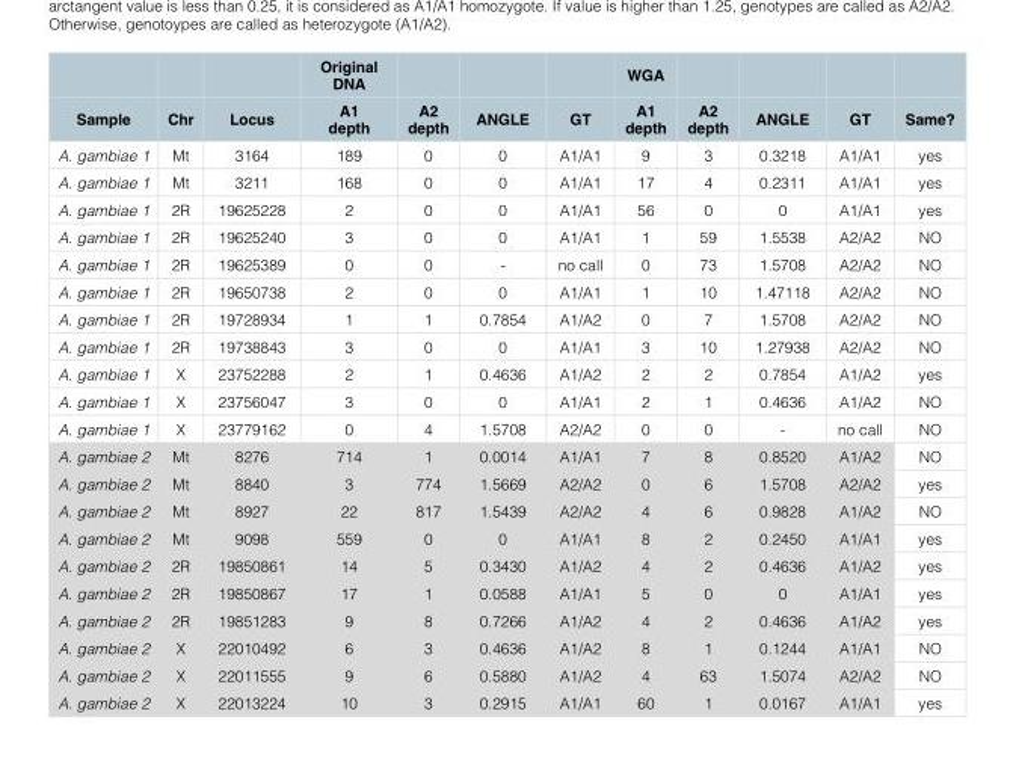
<table><thead><tr><td rowspan="2">Sample</td><td rowspan="2">Chr</td><td rowspan="2">Locus</td><td rowspan="2">Original DNA A1 depth</td><td rowspan="2">A2 depth</td><td rowspan="2">ANGLE</td><td rowspan="2">GT</td><td rowspan="2">WGA A1 depth</td><td rowspan="2">A2 depth</td><td rowspan="2">ANGLE</td><td rowspan="2">GT</td><td rowspan="2">Same?</td></tr><tr></tr></thead><tbody><tr><td>A. gambiae 1</td><td>Mt</td><td>3164</td><td>189</td><td>0</td><td>0</td><td>A1/A1</td><td>9</td><td>3</td><td>0.3218</td><td>A1/A1</td><td>yes</td></tr><tr><td>A. gambiae 1</td><td>Mt</td><td>3211</td><td>168</td><td>0</td><td>0</td><td>A1/A1</td><td>17</td><td>4</td><td>0.2311</td><td>A1/A1</td><td>yes</td></tr><tr><td>A. gambiae 1</td><td>2R</td><td>19625228</td><td>2</td><td>0</td><td>0</td><td>A1/A1</td><td>56</td><td>0</td><td>0</td><td>A1/A1</td><td>yes</td></tr><tr><td>A. gambiae 1</td><td>2R</td><td>19625240</td><td>3</td><td>0</td><td>0</td><td>A1/A1</td><td>1</td><td>59</td><td>1.5538</td><td>A2/A2</td><td>NO</td></tr><tr><td>A. gambiae 1</td><td>2R</td><td>19625389</td><td>0</td><td>0</td><td>-</td><td>no call</td><td>0</td><td>73</td><td>1.5708</td><td>A2/A2</td><td>NO</td></tr><tr><td>A. gambiae 1</td><td>2R</td><td>19650738</td><td>2</td><td>0</td><td>0</td><td>A1/A1</td><td>1</td><td>10</td><td>1.47118</td><td>A2/A2</td><td>NO</td></tr><tr><td>A. gambiae 1</td><td>2R</td><td>19728934</td><td>1</td><td>1</td><td>0.7854</td><td>A1/A2</td><td>0</td><td>7</td><td>1.5708</td><td>A2/A2</td><td>NO</td></tr><tr><td>A. gambiae 1</td><td>2R</td><td>19738843</td><td>3</td><td>0</td><td>0</td><td>A1/A1</td><td>3</td><td>10</td><td>1.27938</td><td>A2/A2</td><td>NO</td></tr><tr><td>A. gambiae 1</td><td>X</td><td>23752288</td><td>2</td><td>1</td><td>0.4636</td><td>A1/A2</td><td>2</td><td>2</td><td>0.7854</td><td>A1/A2</td><td>yes</td></tr><tr><td>A. gambiae 1</td><td>X</td><td>23756047</td><td>3</td><td>0</td><td>0</td><td>A1/A1</td><td>2</td><td>1</td><td>0.4636</td><td>A1/A2</td><td>NO</td></tr><tr><td>A. gambiae 1</td><td>X</td><td>23779162</td><td>0</td><td>4</td><td>1.5708</td><td>A2/A2</td><td>0</td><td>0</td><td>-</td><td>no call</td><td>NO</td></tr><tr><td>A. gambiae 2</td><td>Mt</td><td>8276</td><td>714</td><td>1</td><td>0.0014</td><td>A1/A1</td><td>7</td><td>8</td><td>0.8520</td><td>A1/A2</td><td>NO</td></tr><tr><td>A. gambiae 2</td><td>Mt</td><td>8840</td><td>3</td><td>774</td><td>1.5669</td><td>A2/A2</td><td>0</td><td>6</td><td>1.5708</td><td>A2/A2</td><td>yes</td></tr><tr><td>A. gambiae 2</td><td>Mt</td><td>8927</td><td>22</td><td>817</td><td>1.5439</td><td>A2/A2</td><td>4</td><td>6</td><td>0.9828</td><td>A1/A2</td><td>NO</td></tr><tr><td>A. gambiae 2</td><td>Mt</td><td>9098</td><td>559</td><td>0</td><td>0</td><td>A1/A1</td><td>8</td><td>2</td><td>0.2450</td><td>A1/A1</td><td>yes</td></tr><tr><td>A. gambiae 2</td><td>2R</td><td>19850861</td><td>14</td><td>5</td><td>0.3430</td><td>A1/A2</td><td>4</td><td>2</td><td>0.4636</td><td>A1/A2</td><td>yes</td></tr><tr><td>A. gambiae 2</td><td>2R</td><td>19850867</td><td>17</td><td>1</td><td>0.0588</td><td>A1/A1</td><td>5</td><td>0</td><td>0</td><td>A1/A1</td><td>yes</td></tr><tr><td>A. gambiae 2</td><td>2R</td><td>19851283</td><td>9</td><td>8</td><td>0.7266</td><td>A1/A2</td><td>4</td><td>2</td><td>0.4636</td><td>A1/A2</td><td>yes</td></tr><tr><td>A. gambiae 2</td><td>X</td><td>22010492</td><td>6</td><td>3</td><td>0.4636</td><td>A1/A2</td><td>8</td><td>1</td><td>0.1244</td><td>A1/A1</td><td>NO</td></tr><tr><td>A. gambiae 2</td><td>X</td><td>22011555</td><td>9</td><td>6</td><td>0.5880</td><td>A1/A2</td><td>4</td><td>63</td><td>1.5074</td><td>A2/A2</td><td>NO</td></tr><tr><td>A. gambiae 2</td><td>X</td><td>22013224</td><td>10</td><td>3</td><td>0.2915</td><td>A1/A1</td><td>60</td><td>1</td><td>0.0167</td><td>A1/A1</td><td>yes</td></tr></tbody></table>